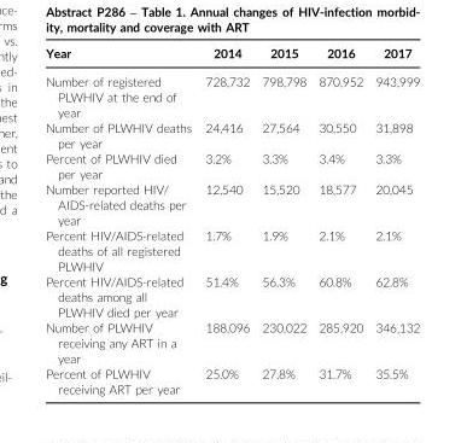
<table><thead><tr><td>Year</td><td>2014</td><td>2015</td><td>2016</td><td>2017</td></tr></thead><tbody><tr><td>Number of registered PLWHIV at the end of year</td><td>728,732</td><td>798,798</td><td>870,952</td><td>943,999</td></tr><tr><td>Number of PLWHIV deaths per year</td><td>24,416</td><td>27,564</td><td>30,550</td><td>31,898</td></tr><tr><td>Percent of PLWHIV died per year</td><td>3.2%</td><td>3.3%</td><td>3.4%</td><td>3.3%</td></tr><tr><td>Number reported HIV/ AIDS-related deaths per year</td><td>12,540</td><td>15,520</td><td>18,577</td><td>20,045</td></tr><tr><td>Percent HIV/AIDS-related deaths of all registered PLWHIV</td><td>1.7%</td><td>1.9%</td><td>2.1%</td><td>2.1%</td></tr><tr><td>Percent HIV/AIDS-related deaths among all PLWHIV died per year</td><td>51.4%</td><td>56.3%</td><td>60.8%</td><td>62.8%</td></tr><tr><td>Number of PLWHIV receiving any ART in a year</td><td>188,096</td><td>230,022</td><td>285,920</td><td>346,132</td></tr><tr><td>Percent of PLWHIV receiving ART per year</td><td>25.0%</td><td>27.8%</td><td>31.7%</td><td>35.5%</td></tr></tbody></table>